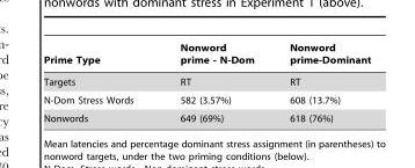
<table><thead><tr><td>Prime Type</td><td>Nonword prime - N-Dom</td><td>Nonword prime-Dominant</td></tr></thead><tbody><tr><td>Targets</td><td>RT</td><td>RT</td></tr><tr><td>N-Dom Stress Words</td><td>582 (3.57%)</td><td>608 (13.7%)</td></tr><tr><td>Nonwords</td><td>649 (69%)</td><td>618 (76%)</td></tr></tbody></table>